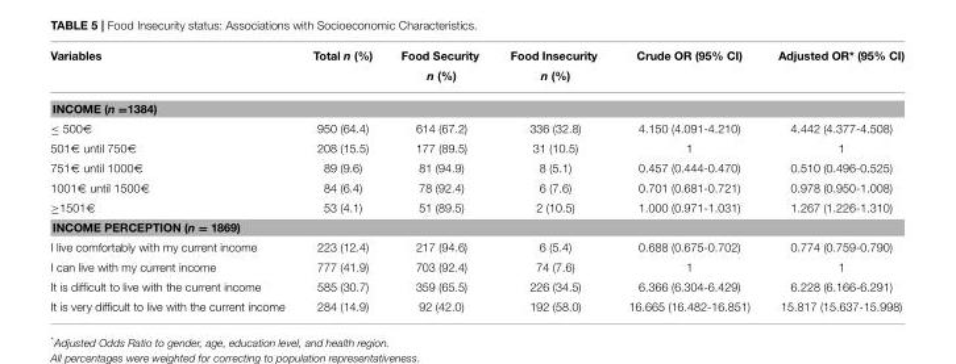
<table><thead><tr><td rowspan="2">Variables</td><td rowspan="2">Total n (%)</td><td rowspan="2">Food Security n (%)</td><td rowspan="2">Food Insecurity n (%)</td><td rowspan="2">Crude OR (95% CI)</td><td rowspan="2">Adjusted OR* (95% CI)</td></tr><tr></tr></thead><tbody><tr><td colspan="6">INCOME (n =1384)</td></tr><tr><td>≤ 500€</td><td>950 (64.4)</td><td>614 (67.2)</td><td>336 (32.8)</td><td>4.150 (4.091-4.210)</td><td>4.442 (4.377-4.508)</td></tr><tr><td>501€ until 750€</td><td>208 (15.5)</td><td>177 (89.5)</td><td>31 (10.5)</td><td>1</td><td>1</td></tr><tr><td>751€ until 1000€</td><td>89 (9.6)</td><td>81 (94.9)</td><td>8 (5.1)</td><td>0.457 (0.444-0.470)</td><td>0.510 (0.496-0.525)</td></tr><tr><td>1001€ until 1500€</td><td>84 (6.4)</td><td>78 (92.4)</td><td>6 (7.6)</td><td>0.701 (0.681-0.721)</td><td>0.978 (0.950-1.008)</td></tr><tr><td>≥1501€</td><td>53 (4.1)</td><td>51 (89.5)</td><td>2 (10.5)</td><td>1.000 (0.971-1.031)</td><td>1.267 (1.226-1.310)</td></tr><tr><td colspan="6">INCOME PERCEPTION (n = 1869)</td></tr><tr><td>I live comfortably with my current income</td><td>223 (12.4)</td><td>217 (94.6)</td><td>6 (5.4)</td><td>0.688 (0.675-0.702)</td><td>0.774 (0.759-0.790)</td></tr><tr><td>I can live with my current income</td><td>777 (41.9)</td><td>703 (92.4)</td><td>74 (7.6)</td><td>1</td><td>1</td></tr><tr><td>It is difficult to live with the current income</td><td>585 (30.7)</td><td>359 (65.5)</td><td>226 (34.5)</td><td>6.366 (6.304-6.429)</td><td>6.228 (6.166-6.291)</td></tr><tr><td>It is very difficult to live with the current income</td><td>284 (14.9)</td><td>92 (42.0)</td><td>192 (58.0)</td><td>16.665 (16.482-16.851)</td><td>15.817 (15.637-15.998)</td></tr></tbody></table>